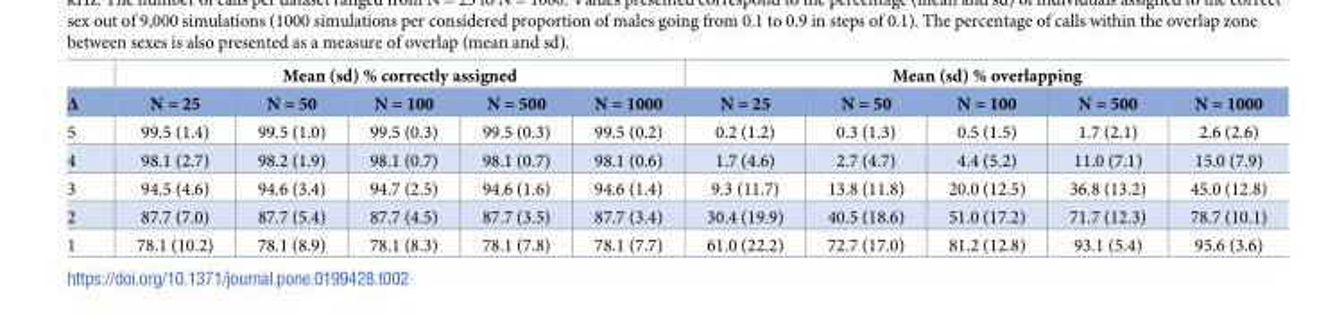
<table><thead><tr><td rowspan="2">Δ</td><td colspan="5">Mean (sd) % correctly assigned</td><td colspan="5">Mean (sd) % overlapping</td></tr><tr><td>N = 25</td><td>N = 50</td><td>N = 100</td><td>N = 500</td><td>N = 1000</td><td>N = 25</td><td>N = 50</td><td>N = 100</td><td>N = 500</td><td>N = 1000</td></tr></thead><tbody><tr><td>5</td><td>99.5 (1.4)</td><td>99.5 (1.0)</td><td>99.5 (0.3)</td><td>99.5 (0.3)</td><td>99.5 (0.2)</td><td>0.2 (1.2)</td><td>0.3 (1.3)</td><td>0.5 (1.5)</td><td>1.7 (2.1)</td><td>2.6 (2.6)</td></tr><tr><td>4</td><td>98.1 (2.7)</td><td>98.2 (1.9)</td><td>98.1 (0.7)</td><td>98.1 (0.7)</td><td>98.1 (0.6)</td><td>1.7 (4.6)</td><td>2.7 (4.7)</td><td>4.4 (5.2)</td><td>11.0 (7.1)</td><td>15.0 (7.9)</td></tr><tr><td>3</td><td>94.5 (4.6)</td><td>94.6 (3.4)</td><td>94.7 (2.5)</td><td>94.6 (1.6)</td><td>94.6 (1.4)</td><td>9.3 (11.7)</td><td>13.8 (11.8)</td><td>20.0 (12.5)</td><td>36.8 (13.2)</td><td>45.0 (12.8)</td></tr><tr><td>2</td><td>87.7 (7.0)</td><td>87.7 (5.4)</td><td>87.7 (4.5)</td><td>87.7 (3.5)</td><td>87.7 (3.4)</td><td>30.4 (19.9)</td><td>40.5 (18.6)</td><td>51.0 (17.2)</td><td>71.7 (12.3)</td><td>78.7 (10.1)</td></tr><tr><td>1</td><td>78.1 (10.2)</td><td>78.1 (8.9)</td><td>78.1 (8.3)</td><td>78.1 (7.8)</td><td>78.1 (7.7)</td><td>61.0 (22.2)</td><td>72.7 (17.0)</td><td>81.2 (12.8)</td><td>93.1 (5.4)</td><td>95.6 (3.6)</td></tr></tbody></table>